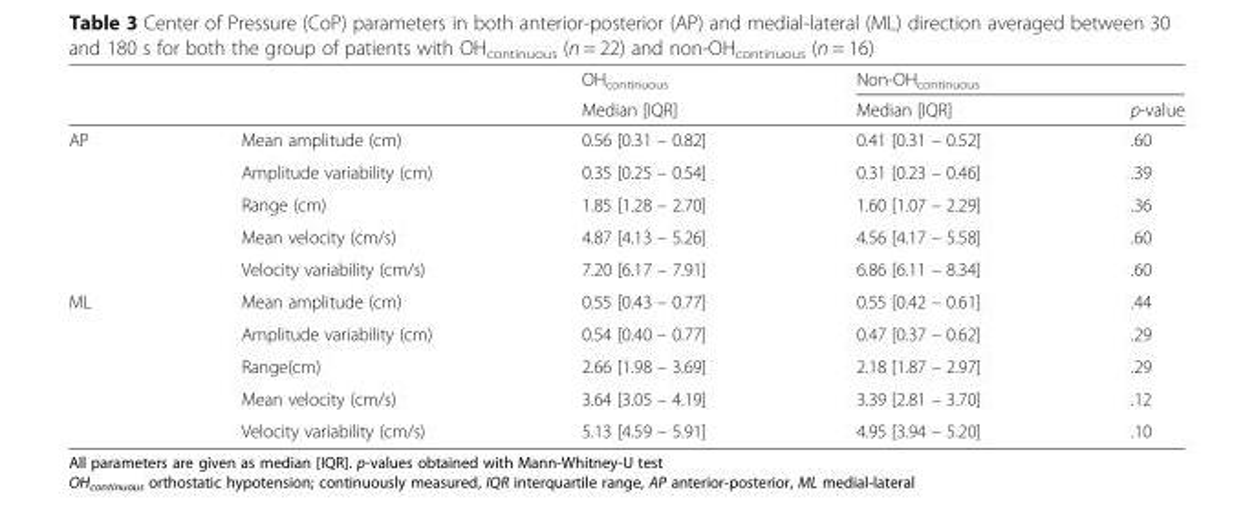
<table><thead><tr><td rowspan="2"></td><td rowspan="2"></td><td rowspan="2">OH<sub>continuous</sub> Median [IQR]</td><td colspan="2">Non-OH<sub>continuous</sub></td></tr><tr><td>Median [IQR]</td><td>p-value</td></tr></thead><tbody><tr><td rowspan="5">AP</td><td>Mean amplitude (cm)</td><td>0.56 [0.31 – 0.82]</td><td>0.41 [0.31 – 0.52]</td><td>.60</td></tr><tr><td>Amplitude variability (cm)</td><td>0.35 [0.25 – 0.54]</td><td>0.31 [0.23 – 0.46]</td><td>.39</td></tr><tr><td>Range (cm)</td><td>1.85 [1.28 – 2.70]</td><td>1.60 [1.07 – 2.29]</td><td>.36</td></tr><tr><td>Mean velocity (cm/s)</td><td>4.87 [4.13 – 5.26]</td><td>4.56 [4.17 – 5.58]</td><td>.60</td></tr><tr><td>Velocity variability (cm/s)</td><td>7.20 [6.17 – 7.91]</td><td>6.86 [6.11 – 8.34]</td><td>.60</td></tr><tr><td rowspan="5">ML</td><td>Mean amplitude (cm)</td><td>0.55 [0.43 – 0.77]</td><td>0.55 [0.42 – 0.61]</td><td>.44</td></tr><tr><td>Amplitude variability (cm)</td><td>0.54 [0.40 – 0.77]</td><td>0.47 [0.37 – 0.62]</td><td>.29</td></tr><tr><td>Range(cm)</td><td>2.66 [1.98 – 3.69]</td><td>2.18 [1.87 – 2.97]</td><td>.29</td></tr><tr><td>Mean velocity (cm/s)</td><td>3.64 [3.05 – 4.19]</td><td>3.39 [2.81 – 3.70]</td><td>.12</td></tr><tr><td>Velocity variability (cm/s)</td><td>5.13 [4.59 – 5.91]</td><td>4.95 [3.94 – 5.20]</td><td>.10</td></tr></tbody></table>